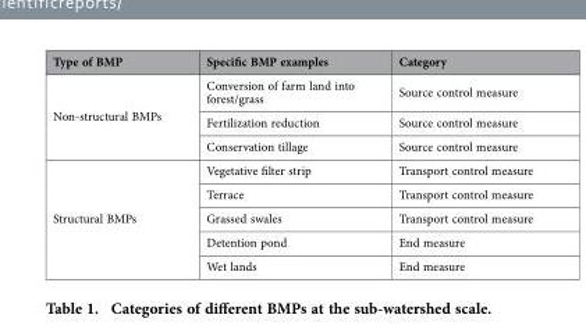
<table><thead><tr><td>Type of BMP</td><td>Specific BMP examples</td><td>Category</td></tr></thead><tbody><tr><td rowspan="3">Non-structural BMPs</td><td>Conversion of farm land into forest/grass</td><td>Source control measure</td></tr><tr><td>Fertilization reduction</td><td>Source control measure</td></tr><tr><td>Conservation tillage</td><td>Source control measure</td></tr><tr><td rowspan="5">Structural BMPs</td><td>Vegetative filter strip</td><td>Transport control measure</td></tr><tr><td>Terrace</td><td>Transport control measure</td></tr><tr><td>Grassed swales</td><td>Transport control measure</td></tr><tr><td>Detention pond</td><td>End measure</td></tr><tr><td>Wet lands</td><td>End measure</td></tr></tbody></table>